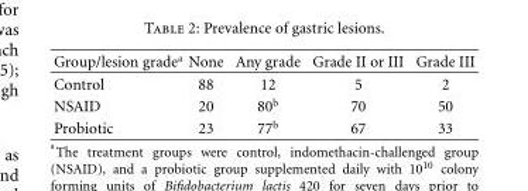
<table><thead><tr><td>Group/lesion grade<sup>a</sup></td><td>None</td><td>Any grade</td><td>Grade II or III</td><td>Grade III</td></tr></thead><tbody><tr><td>Control</td><td>88</td><td>12</td><td>5</td><td>2</td></tr><tr><td>NSAID</td><td>20</td><td>80<sup>b</sup></td><td>70</td><td>50</td></tr><tr><td>Probiotic</td><td>23</td><td>77<sup>b</sup></td><td>67</td><td>33</td></tr></tbody></table>